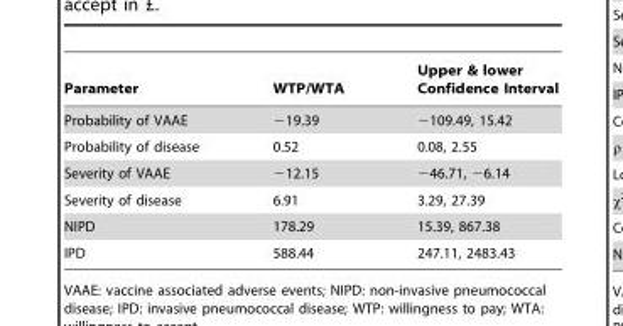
<table><thead><tr><td>Parameter</td><td>WTP/WTA</td><td>Upper &amp; lower Confidence Interval</td></tr></thead><tbody><tr><td>Probability of VAAE</td><td>−19.39</td><td>−109.49, 15.42</td></tr><tr><td>Probability of disease</td><td>0.52</td><td>0.08, 2.55</td></tr><tr><td>Severity of VAAE</td><td>−12.15</td><td>−46.71, −6.14</td></tr><tr><td>Severity of disease</td><td>6.91</td><td>3.29, 27.39</td></tr><tr><td>NIPD</td><td>178.29</td><td>15.39, 867.38</td></tr><tr><td>IPD</td><td>588.44</td><td>247.11, 2483.43</td></tr></tbody></table>